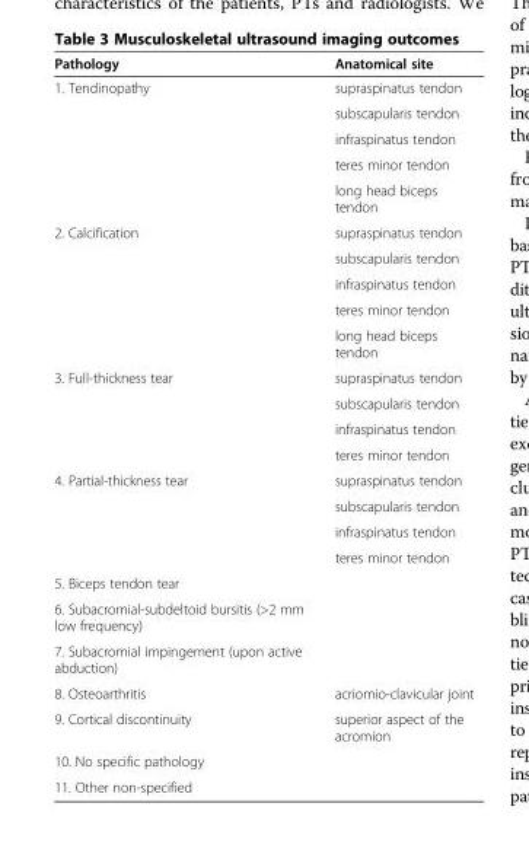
<table><thead><tr><td>Pathology</td><td>Anatomical site</td></tr></thead><tbody><tr><td rowspan="5">1. Tendinopathy</td><td>supraspinatus tendon</td></tr><tr><td>subscapularis tendon</td></tr><tr><td>infraspinatus tendon</td></tr><tr><td>teres minor tendon</td></tr><tr><td>long head biceps tendon</td></tr><tr><td rowspan="5">2. Calcification</td><td>supraspinatus tendon</td></tr><tr><td>subscapularis tendon</td></tr><tr><td>infraspinatus tendon</td></tr><tr><td>teres minor tendon</td></tr><tr><td>long head biceps tendon</td></tr><tr><td rowspan="4">3. Full-thickness tear</td><td>supraspinatus tendon</td></tr><tr><td>subscapularis tendon</td></tr><tr><td>infraspinatus tendon</td></tr><tr><td>teres minor tendon</td></tr><tr><td rowspan="4">4. Partial-thickness tear</td><td>supraspinatus tendon</td></tr><tr><td>subscapularis tendon</td></tr><tr><td>infraspinatus tendon</td></tr><tr><td>teres minor tendon</td></tr><tr><td colspan="2">5. Biceps tendon tear</td></tr><tr><td colspan="2">6. Subacromial-subdeltoid bursitis (&gt;2 mm low frequency)</td></tr><tr><td colspan="2">7. Subacromial impingement (upon active abduction)</td></tr><tr><td>8. Osteoarthritis</td><td>acriomio-clavicular joint</td></tr><tr><td>9. Cortical discontinuity</td><td>superior aspect of the acromion</td></tr><tr><td colspan="2">10. No specific pathology</td></tr><tr><td>11. Other non-specified</td><td></td></tr></tbody></table>